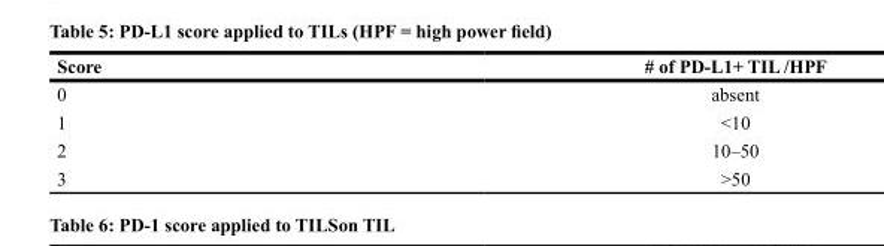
<table><thead><tr><td>Score</td><td># of PD-L1+ TIL /HPF</td></tr></thead><tbody><tr><td>0</td><td>absent</td></tr><tr><td>1</td><td>&lt;10</td></tr><tr><td>2</td><td>10–50</td></tr><tr><td>3</td><td>&gt;50</td></tr></tbody></table>